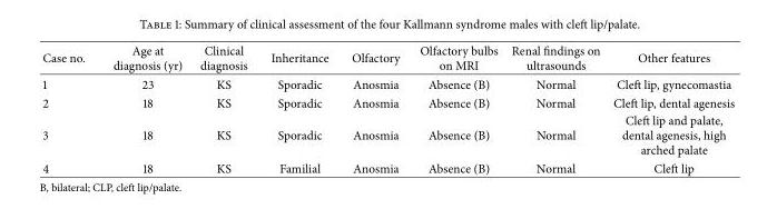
<table><thead><tr><td>Case no.</td><td>Age at diagnosis (yr)</td><td>Clinical diagnosis</td><td>Inheritance</td><td>Olfactory</td><td>Olfactory bulbs on MRI</td><td>Renal findings on ultrasounds</td><td>Other features</td></tr></thead><tbody><tr><td>1</td><td>23</td><td>KS</td><td>Sporadic</td><td>Anosmia</td><td>Absence (B)</td><td>Normal</td><td>Cleft lip, gynecomastia</td></tr><tr><td>2</td><td>18</td><td>KS</td><td>Sporadic</td><td>Anosmia</td><td>Absence (B)</td><td>Normal</td><td>Cleft lip, dental agenesis</td></tr><tr><td>3</td><td>18</td><td>KS</td><td>Sporadic</td><td>Anosmia</td><td>Absence (B)</td><td>Normal</td><td>Cleft lip and palate, dental agenesis, high arched palate</td></tr><tr><td>4</td><td>18</td><td>KS</td><td>Familial</td><td>Anosmia</td><td>Absence (B)</td><td>Normal</td><td>Cleft lip</td></tr></tbody></table>